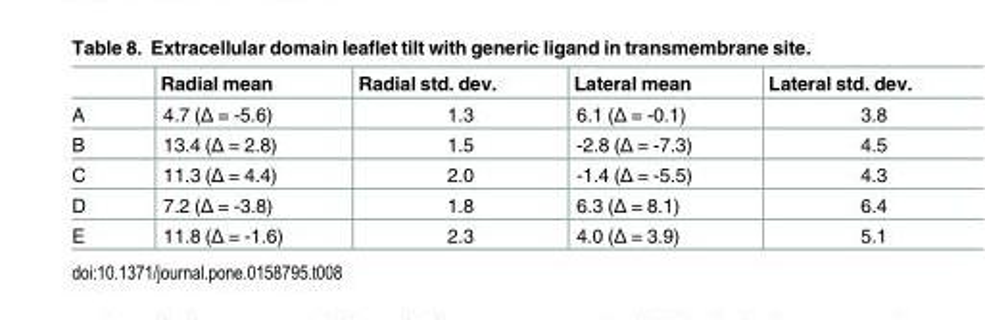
<table><thead><tr><td></td><td>Radial mean</td><td>Radial std. dev.</td><td>Lateral mean</td><td>Lateral std. dev.</td></tr></thead><tbody><tr><td>A</td><td>4.7 (Δ = -5.6)</td><td>1.3</td><td>6.1 (Δ = -0.1)</td><td>3.8</td></tr><tr><td>B</td><td>13.4 (Δ = 2.8)</td><td>1.5</td><td>-2.8 (Δ = -7.3)</td><td>4.5</td></tr><tr><td>C</td><td>11.3 (Δ = 4.4)</td><td>2.0</td><td>-1.4 (Δ = -5.5)</td><td>4.3</td></tr><tr><td>D</td><td>7.2 (Δ = -3.8)</td><td>1.8</td><td>6.3 (Δ = 8.1)</td><td>6.4</td></tr><tr><td>E</td><td>11.8 (Δ = -1.6)</td><td>2.3</td><td>4.0 (Δ = 3.9)</td><td>5.1</td></tr></tbody></table>